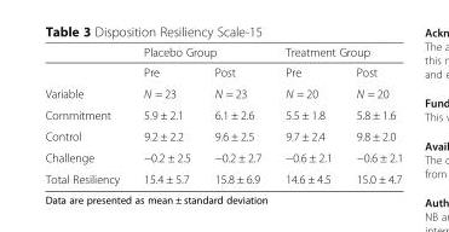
<table><thead><tr><td rowspan="2"></td><td colspan="2">Placebo Group</td><td colspan="2">Treatment Group</td></tr><tr><td>Pre</td><td>Post</td><td>Pre</td><td>Post</td></tr></thead><tbody><tr><td>Variable</td><td>N = 23</td><td>N = 23</td><td>N = 20</td><td>N = 20</td></tr><tr><td>Commitment</td><td>5.9 ± 2.1</td><td>6.1 ± 2.6</td><td>5.5 ± 1.8</td><td>5.8 ± 1.6</td></tr><tr><td>Control</td><td>9.2 ± 2.2</td><td>9.6 ± 2.5</td><td>9.7 ± 2.4</td><td>9.8 ± 2.0</td></tr><tr><td>Challenge</td><td>−0.2 ± 2.5</td><td>−0.2 ± 2.7</td><td>−0.6 ± 2.1</td><td>−0.6 ± 2.1</td></tr><tr><td>Total Resiliency</td><td>15.4 ± 5.7</td><td>15.8 ± 6.9</td><td>14.6 ± 4.5</td><td>15.0 ± 4.7</td></tr></tbody></table>